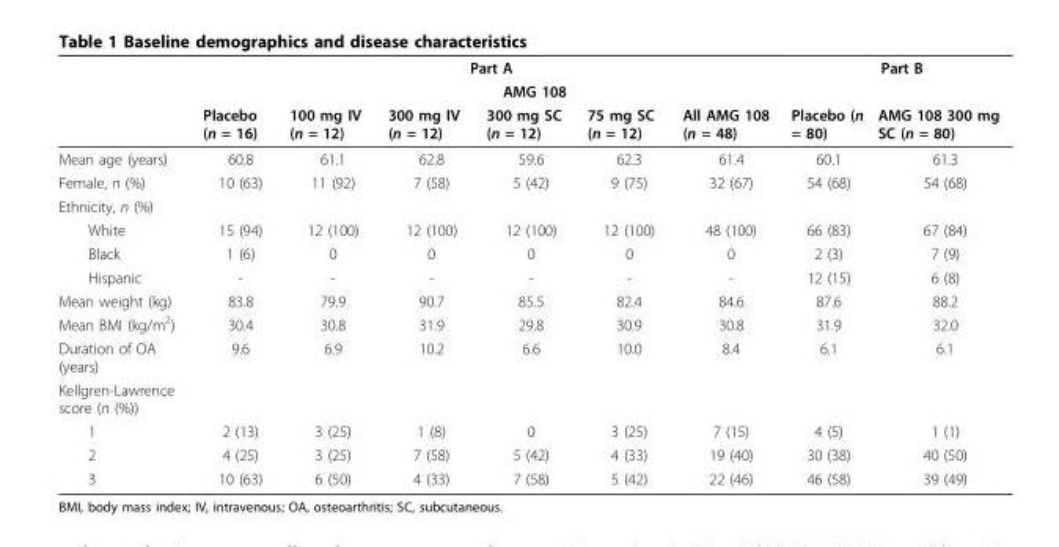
<table><thead><tr><td rowspan="3"></td><td colspan="6">Part A</td><td colspan="2">Part B</td></tr><tr><td rowspan="2">Placebo (n = 16)</td><td colspan="5">AMG 108</td><td rowspan="2">Placebo (n = 80)</td><td rowspan="2">AMG 108 300 mg SC (n = 80)</td></tr><tr><td>100 mg IV (n = 12)</td><td>300 mg IV (n = 12)</td><td>300 mg SC (n = 12)</td><td>75 mg SC (n = 12)</td><td>All AMG 108 (n = 48)</td></tr></thead><tbody><tr><td>Mean age (years)</td><td>60.8</td><td>61.1</td><td>62.8</td><td>59.6</td><td>62.3</td><td>61.4</td><td>60.1</td><td>61.3</td></tr><tr><td>Female, n (%)</td><td>10 (63)</td><td>11 (92)</td><td>7 (58)</td><td>5 (42)</td><td>9 (75)</td><td>32 (67)</td><td>54 (68)</td><td>54 (68)</td></tr><tr><td colspan="9">Ethnicity, n (%)</td></tr><tr><td>White</td><td>15 (94)</td><td>12 (100)</td><td>12 (100)</td><td>12 (100)</td><td>12 (100)</td><td>48 (100)</td><td>66 (83)</td><td>67 (84)</td></tr><tr><td>Black</td><td>1 (6)</td><td>0</td><td>0</td><td>0</td><td>0</td><td>0</td><td>2 (3)</td><td>7 (9)</td></tr><tr><td>Hispanic</td><td>-</td><td>-</td><td>-</td><td>-</td><td>-</td><td>-</td><td>12 (15)</td><td>6 (8)</td></tr><tr><td>Mean weight (kg)</td><td>83.8</td><td>79.9</td><td>90.7</td><td>85.5</td><td>82.4</td><td>84.6</td><td>87.6</td><td>88.2</td></tr><tr><td>Mean BMI (kg/m<sup>2</sup>)</td><td>30.4</td><td>30.8</td><td>31.9</td><td>29.8</td><td>30.9</td><td>30.8</td><td>31.9</td><td>32.0</td></tr><tr><td>Duration of OA (years)</td><td>9.6</td><td>6.9</td><td>10.2</td><td>6.6</td><td>10.0</td><td>8.4</td><td>6.1</td><td>6.1</td></tr><tr><td colspan="9">Kellgren-Lawrence score (n (%))</td></tr><tr><td>1</td><td>2 (13)</td><td>3 (25)</td><td>1 (8)</td><td>0</td><td>3 (25)</td><td>7 (15)</td><td>4 (5)</td><td>1 (1)</td></tr><tr><td>2</td><td>4 (25)</td><td>3 (25)</td><td>7 (58)</td><td>5 (42)</td><td>4 (33)</td><td>19 (40)</td><td>30 (38)</td><td>40 (50)</td></tr><tr><td>3</td><td>10 (63)</td><td>6 (50)</td><td>4 (33)</td><td>7 (58)</td><td>5 (42)</td><td>22 (46)</td><td>46 (58)</td><td>39 (49)</td></tr></tbody></table>